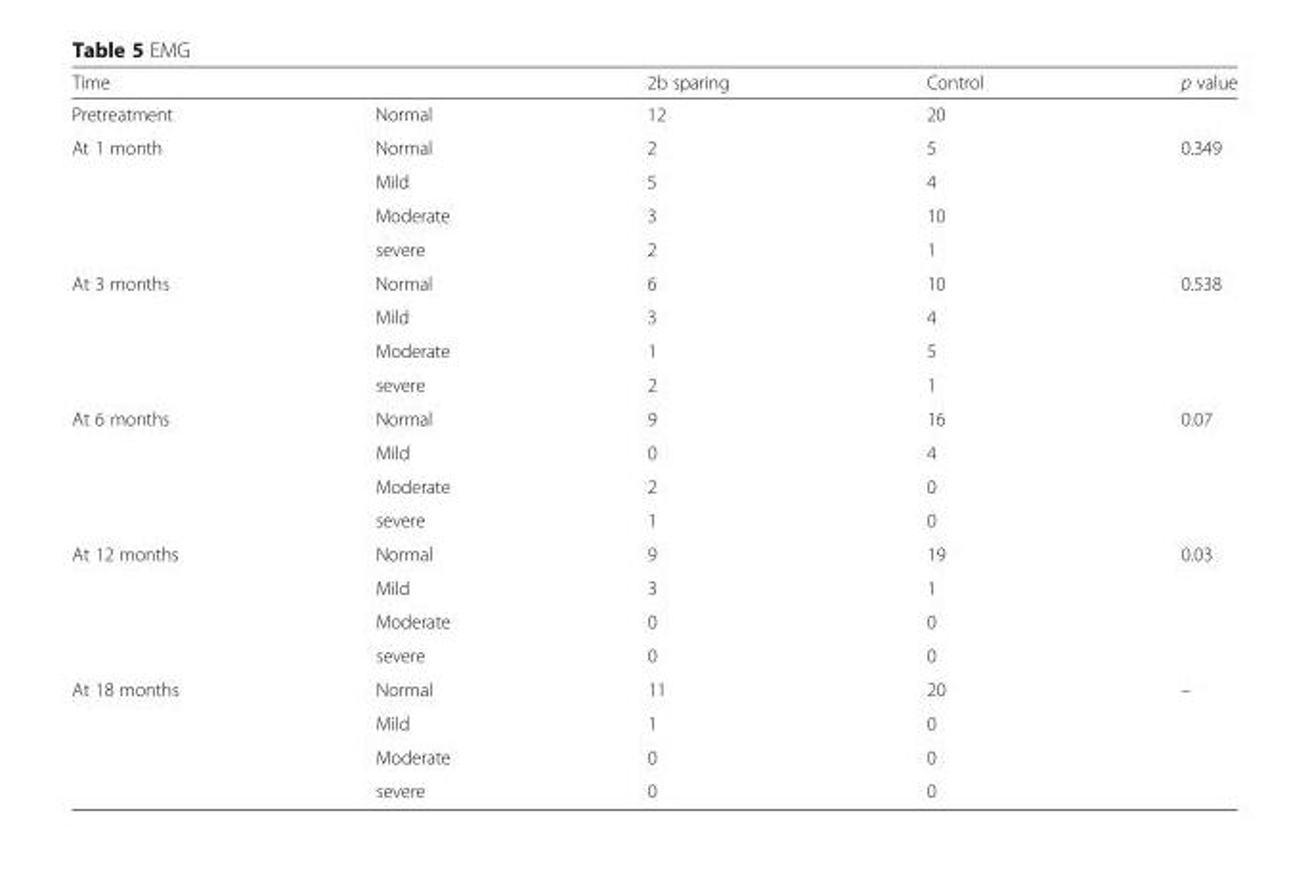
<table><thead><tr><td colspan="2">Time</td><td rowspan="2">2b sparing 12</td><td rowspan="2">Control 20</td><td rowspan="2">p value</td></tr><tr><td>Pretreatment</td><td>Normal</td></tr></thead><tbody><tr><td rowspan="4">At 1 month</td><td>Normal</td><td>2</td><td>5</td><td rowspan="4">0.349</td></tr><tr><td>Mild</td><td>5</td><td>4</td></tr><tr><td>Moderate</td><td>3</td><td>10</td></tr><tr><td>severe</td><td>2</td><td>1</td></tr><tr><td rowspan="4">At 3 months</td><td>Normal</td><td>6</td><td>10</td><td rowspan="4">0.538</td></tr><tr><td>Mild</td><td>3</td><td>4</td></tr><tr><td>Moderate</td><td>1</td><td>5</td></tr><tr><td>severe</td><td>2</td><td>1</td></tr><tr><td rowspan="4">At 6 months</td><td>Normal</td><td>9</td><td>16</td><td rowspan="4">0.07</td></tr><tr><td>Mild</td><td>0</td><td>4</td></tr><tr><td>Moderate</td><td>2</td><td>0</td></tr><tr><td>severe</td><td>1</td><td>0</td></tr><tr><td rowspan="4">At 12 months</td><td>Normal</td><td>9</td><td>19</td><td rowspan="4">0.03</td></tr><tr><td>Mild</td><td>3</td><td>1</td></tr><tr><td>Moderate</td><td>0</td><td>0</td></tr><tr><td>severe</td><td>0</td><td>0</td></tr><tr><td rowspan="4">At 18 months</td><td>Normal</td><td>11</td><td>20</td><td rowspan="4">–</td></tr><tr><td>Mild</td><td>1</td><td>0</td></tr><tr><td>Moderate</td><td>0</td><td>0</td></tr><tr><td>severe</td><td>0</td><td>0</td></tr></tbody></table>